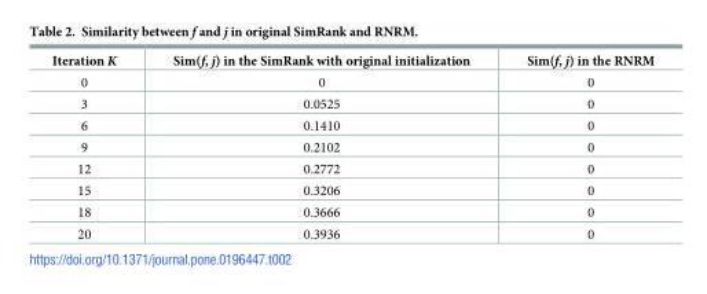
<table><thead><tr><td>Iteration K</td><td>Sim(f, j) in the SimRank with original initialization</td><td>Sim(f, j) in the RNRM</td></tr></thead><tbody><tr><td>0</td><td>0</td><td>0</td></tr><tr><td>3</td><td>0.0525</td><td>0</td></tr><tr><td>6</td><td>0.1410</td><td>0</td></tr><tr><td>9</td><td>0.2102</td><td>0</td></tr><tr><td>12</td><td>0.2772</td><td>0</td></tr><tr><td>15</td><td>0.3206</td><td>0</td></tr><tr><td>18</td><td>0.3666</td><td>0</td></tr><tr><td>20</td><td>0.3936</td><td>0</td></tr></tbody></table>